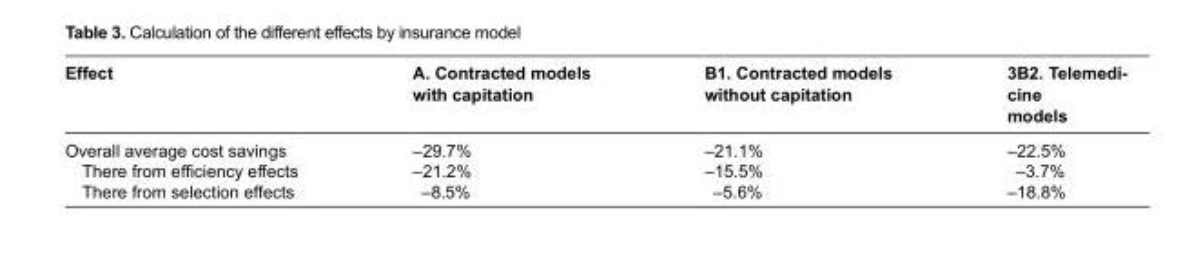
<table><thead><tr><td>Effect</td><td>A. Contracted models with capitation</td><td>B1. Contracted models without capitation</td><td>3B2. Telemedi- cine models</td></tr></thead><tbody><tr><td>Overall average cost savings</td><td>–29.7%</td><td>–21.1%</td><td>–22.5%</td></tr><tr><td>There from efficiency effects</td><td>–21.2%</td><td>–15.5%</td><td>–3.7%</td></tr><tr><td>There from selection effects</td><td>–8.5%</td><td>–5.6%</td><td>–18.8%</td></tr></tbody></table>